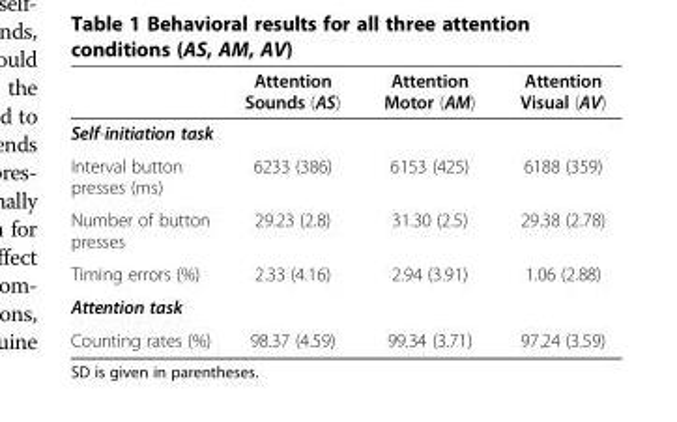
<table><thead><tr><td></td><td>Attention Sounds (AS)</td><td>Attention Motor (AM)</td><td>Attention Visual (AV)</td></tr></thead><tbody><tr><td colspan="4">Self-initiation task</td></tr><tr><td>Interval button presses (ms)</td><td>6233 (386)</td><td>6153 (425)</td><td>6188 (359)</td></tr><tr><td>Number of button presses</td><td>29.23 (2.8)</td><td>31.30 (2.5)</td><td>29.38 (2.78)</td></tr><tr><td>Timing errors (%)</td><td>2.33 (4.16)</td><td>2.94 (3.91)</td><td>1.06 (2.88)</td></tr><tr><td colspan="4">Attention task</td></tr><tr><td>Counting rates (%)</td><td>98.37 (4.59)</td><td>99.34 (3.71)</td><td>97.24 (3.59)</td></tr></tbody></table>